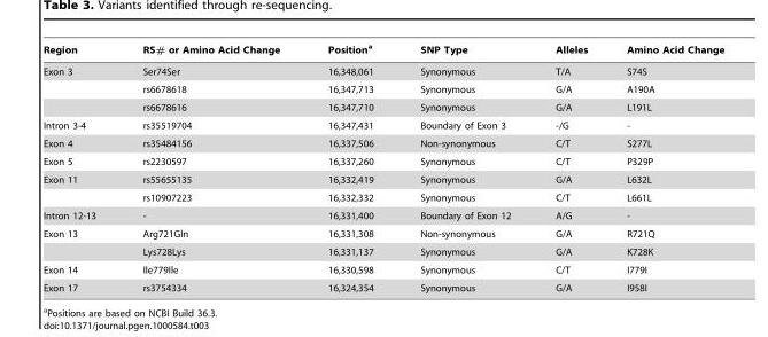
<table><thead><tr><td>Region</td><td>RS# or Amino Acid Change</td><td>Position<sup>a</sup></td><td>SNP Type</td><td>Alleles</td><td>Amino Acid Change</td></tr></thead><tbody><tr><td rowspan="3">Exon 3</td><td>Ser74Ser</td><td>16,348,061</td><td>Synonymous</td><td>T/A</td><td>S74S</td></tr><tr><td>rs6678618</td><td>16,347,713</td><td>Synonymous</td><td>G/A</td><td>A190A</td></tr><tr><td>rs6678616</td><td>16,347,710</td><td>Synonymous</td><td>G/A</td><td>L191L</td></tr><tr><td>Intron 3-4</td><td>rs35519704</td><td>16,347,431</td><td>Boundary of Exon 3</td><td>-/G</td><td>-</td></tr><tr><td>Exon 4</td><td>rs35484156</td><td>16,337,506</td><td>Non-synonymous</td><td>C/T</td><td>S277L</td></tr><tr><td>Exon 5</td><td>rs2230597</td><td>16,337,260</td><td>Synonymous</td><td>C/T</td><td>P329P</td></tr><tr><td rowspan="2">Exon 11</td><td>rs55655135</td><td>16,332,419</td><td>Synonymous</td><td>G/A</td><td>L632L</td></tr><tr><td>rs10907223</td><td>16,332,332</td><td>Synonymous</td><td>C/T</td><td>L661L</td></tr><tr><td>Intron 12-13</td><td>-</td><td>16,331,400</td><td>Boundary of Exon 12</td><td>A/G</td><td>-</td></tr><tr><td rowspan="2">Exon 13</td><td>Arg721Gln</td><td>16,331,308</td><td>Non-synonymous</td><td>G/A</td><td>R721Q</td></tr><tr><td>Lys728Lys</td><td>16,331,137</td><td>Synonymous</td><td>G/A</td><td>K728K</td></tr><tr><td>Exon 14</td><td>Ile779Ile</td><td>16,330,598</td><td>Synonymous</td><td>C/T</td><td>I779I</td></tr><tr><td>Exon 17</td><td>rs3754334</td><td>16,324,354</td><td>Synonymous</td><td>G/A</td><td>I958I</td></tr></tbody></table>